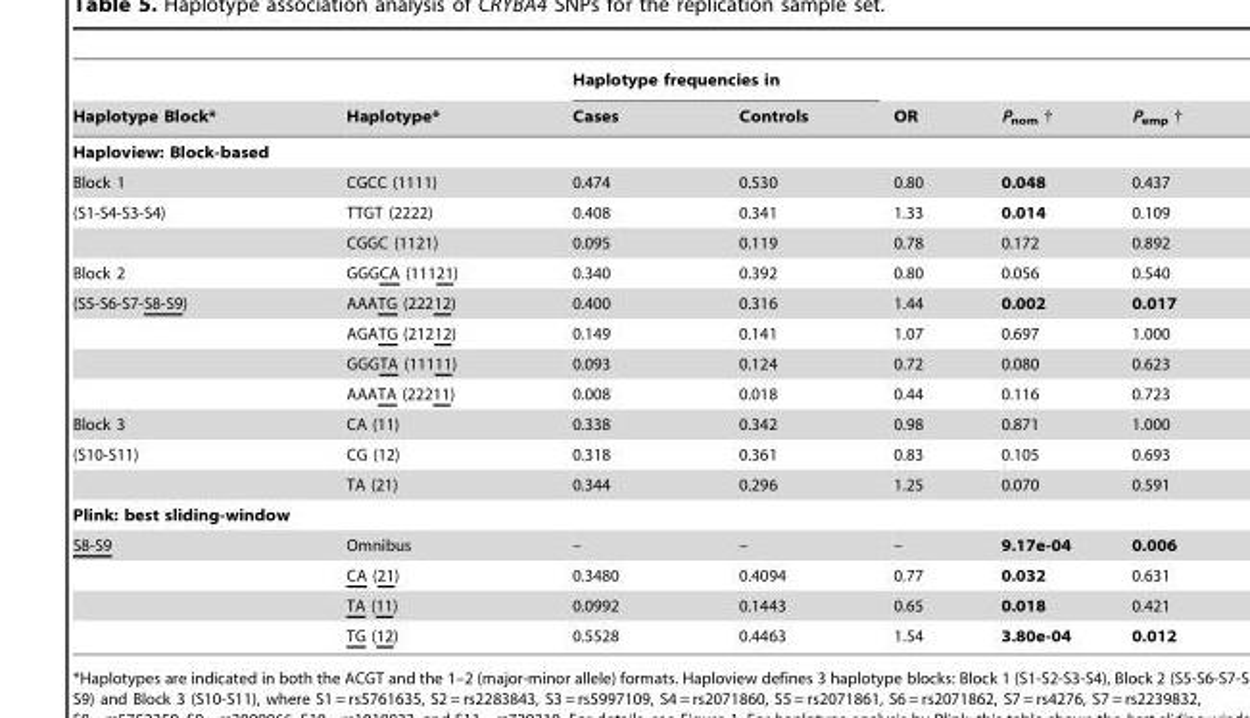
<table><thead><tr><td rowspan="2">Haplotype Block*</td><td rowspan="2">Haplotype*</td><td colspan="2">Haplotype frequencies in</td><td rowspan="2">OR</td><td rowspan="2">P<sub>nom</sub> †</td><td rowspan="2">Pemp</td></tr><tr><td>Cases</td><td>Controls</td></tr></thead><tbody><tr><td colspan="7">Haploview: Block-based</td></tr><tr><td>Block 1</td><td>CGCC (1111)</td><td>0.474</td><td>0.530</td><td>0.80</td><td>0.048</td><td>0.437</td></tr><tr><td rowspan="2">(S1-S4-S3-S4)</td><td>TTGT (2222)</td><td>0.408</td><td>0.341</td><td>1.33</td><td>0.014</td><td>0.109</td></tr><tr><td>CGGC (1121)</td><td>0.095</td><td>0.119</td><td>0.78</td><td>0.172</td><td>0.892</td></tr><tr><td>Block 2</td><td>GGGCA (11121)</td><td>0.340</td><td>0.392</td><td>0.80</td><td>0.056</td><td>0.540</td></tr><tr><td rowspan="4">(S5-S6-S7-S8-S9)</td><td>AAATG (22212)</td><td>0.400</td><td>0.316</td><td>1.44</td><td>0.002</td><td>0.017</td></tr><tr><td>AGATG (21212)</td><td>0.149</td><td>0.141</td><td>1.07</td><td>0.697</td><td>1.000</td></tr><tr><td>GGGTA (11111)</td><td>0.093</td><td>0.124</td><td>0.72</td><td>0.080</td><td>0.623</td></tr><tr><td>AAATA (22211)</td><td>0.008</td><td>0.018</td><td>0.44</td><td>0.116</td><td>0.723</td></tr><tr><td>Block 3</td><td>CA (11)</td><td>0.338</td><td>0.342</td><td>0.98</td><td>0.871</td><td>1.000</td></tr><tr><td rowspan="2">(S10-S11)</td><td>CG (12)</td><td>0.318</td><td>0.361</td><td>0.83</td><td>0.105</td><td>0.693</td></tr><tr><td>TA (21)</td><td>0.344</td><td>0.296</td><td>1.25</td><td>0.070</td><td>0.591</td></tr><tr><td colspan="7">Plink: best sliding-window</td></tr><tr><td rowspan="4">S8-S9</td><td>Omnibus</td><td>–</td><td>–</td><td>–</td><td>9.17e-04</td><td>0.006</td></tr><tr><td>CA (21)</td><td>0.3480</td><td>0.4094</td><td>0.77</td><td>0.032</td><td>0.631</td></tr><tr><td>TA (11)</td><td>0.0992</td><td>0.1443</td><td>0.65</td><td>0.018</td><td>0.421</td></tr><tr><td>TG (12)</td><td>0.5528</td><td>0.4463</td><td>1.54</td><td>3.80e-04</td><td>0.012</td></tr></tbody></table>